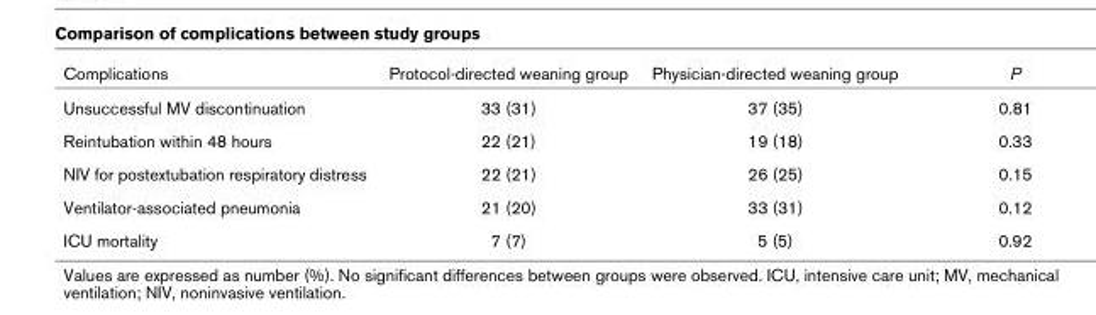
<table><thead><tr><td>Complications</td><td>Protocol-directed weaning group</td><td>Physician-directed weaning group</td><td>P</td></tr></thead><tbody><tr><td>Unsuccessful MV discontinuation</td><td>33 (31)</td><td>37 (35)</td><td>0.81</td></tr><tr><td>Reintubation within 48 hours</td><td>22 (21)</td><td>19 (18)</td><td>0.33</td></tr><tr><td>NIV for postextubation respiratory distress</td><td>22 (21)</td><td>26 (25)</td><td>0.15</td></tr><tr><td>Ventilator-associated pneumonia</td><td>21 (20)</td><td>33 (31)</td><td>0.12</td></tr><tr><td>ICU mortality</td><td>7 (7)</td><td>5 (5)</td><td>0.92</td></tr></tbody></table>